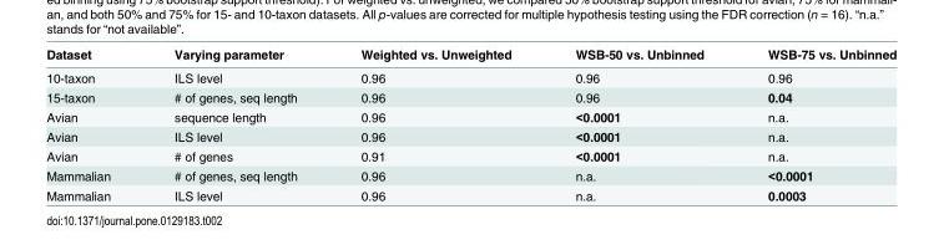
<table><thead><tr><td>Dataset</td><td>Varying parameter</td><td>Weighted vs. Unweighted</td><td>WSB-50 vs. Unbinned</td><td>WSB-75 vs. Unbinned</td></tr></thead><tbody><tr><td>10-taxon</td><td>ILS level</td><td>0.96</td><td>0.96</td><td>0.96</td></tr><tr><td>15-taxon</td><td># of genes, seq length</td><td>0.96</td><td>0.96</td><td>0.04</td></tr><tr><td>Avian</td><td>sequence length</td><td>0.96</td><td>&lt;0.0001</td><td>n.a.</td></tr><tr><td>Avian</td><td>ILS level</td><td>0.96</td><td>&lt;0.0001</td><td>n.a.</td></tr><tr><td>Avian</td><td># of genes</td><td>0.91</td><td>&lt;0.0001</td><td>n.a.</td></tr><tr><td>Mammalian</td><td># of genes, seq length</td><td>0.96</td><td>n.a.</td><td>&lt;0.0001</td></tr><tr><td>Mammalian</td><td>ILS level</td><td>0.96</td><td>n.a.</td><td>0.0003</td></tr></tbody></table>